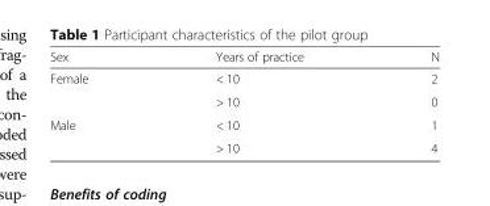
<table><thead><tr><td>Sex</td><td>Years of practice</td><td>N</td></tr></thead><tbody><tr><td rowspan="2">Female</td><td>&lt; 10</td><td>2</td></tr><tr><td>&gt; 10</td><td>0</td></tr><tr><td rowspan="2">Male</td><td>&lt; 10</td><td>1</td></tr><tr><td>&gt; 10</td><td>4</td></tr></tbody></table>